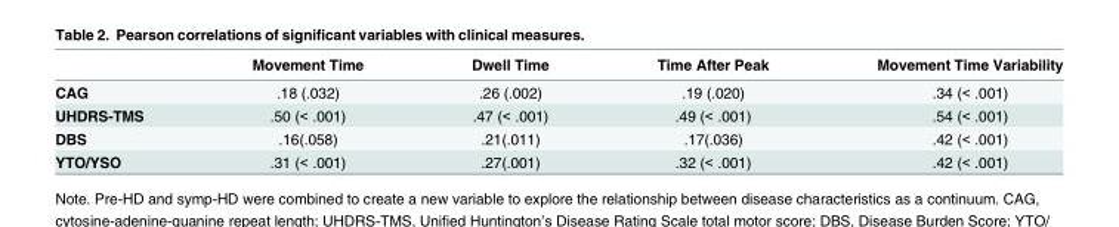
<table><thead><tr><td></td><td>Movement Time</td><td>Dwell Time</td><td>Time After Peak</td><td>Movement Time Variability</td></tr></thead><tbody><tr><td>CAG</td><td>.18 (.032)</td><td>.26 (.002)</td><td>.19 (.020)</td><td>.34 (&lt; .001)</td></tr><tr><td>UHDRS-TMS</td><td>.50 (&lt; .001)</td><td>.47 (&lt; .001)</td><td>.49 (&lt; .001)</td><td>.54 (&lt; .001)</td></tr><tr><td>DBS</td><td>.16(.058)</td><td>.21(.011)</td><td>.17(.036)</td><td>.42 (&lt; .001)</td></tr><tr><td>YTO/YSO</td><td>.31 (&lt; .001)</td><td>.27(.001)</td><td>.32 (&lt; .001)</td><td>.42 (&lt; .001)</td></tr></tbody></table>